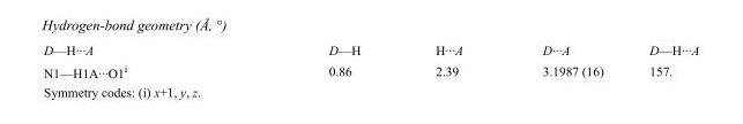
<table><tbody><tr><td>D—H···A</td><td>D—H</td><td>H···A</td><td>D···A</td><td>D—H···A</td></tr><tr><td>N1—H1A···O1<sup>i</sup></td><td>0.86</td><td>2.39</td><td>3.1987 (16)</td><td>157.</td></tr></tbody></table>